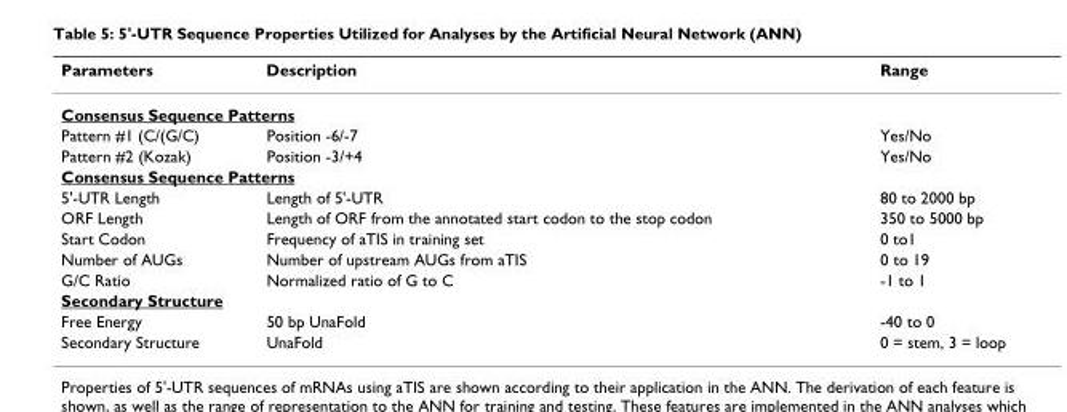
<table><thead><tr><td>Parameters</td><td>Description</td><td>Range</td></tr></thead><tbody><tr><td colspan="3">Consensus Sequence Patterns</td></tr><tr><td>Pattern #1 (C/(G/C)</td><td>Position -6/-7</td><td>Yes/No</td></tr><tr><td>Pattern #2 (Kozak)</td><td>Position -3/+4</td><td>Yes/No</td></tr><tr><td colspan="3">Consensus Sequence Patterns</td></tr><tr><td>5&#x27;-UTR Length</td><td>Length of 5&#x27;-UTR</td><td>80 to 2000 bp</td></tr><tr><td>ORF Length</td><td>Length of ORF from the annotated start codon to the stop codon</td><td>350 to 5000 bp</td></tr><tr><td>Start Codon</td><td>Frequency of aTIS in training set</td><td>0 to1</td></tr><tr><td>Number of AUGs</td><td>Number of upstream AUGs from aTIS</td><td>0 to 19</td></tr><tr><td>G/C Ratio</td><td>Normalized ratio of G to C</td><td>-1 to 1</td></tr><tr><td colspan="3">Secondary Structure</td></tr><tr><td>Free Energy</td><td>50 bp UnaFold</td><td>-40 to 0</td></tr><tr><td>Secondary Structure</td><td>UnaFold</td><td>0 = stem, 3 = loop</td></tr></tbody></table>